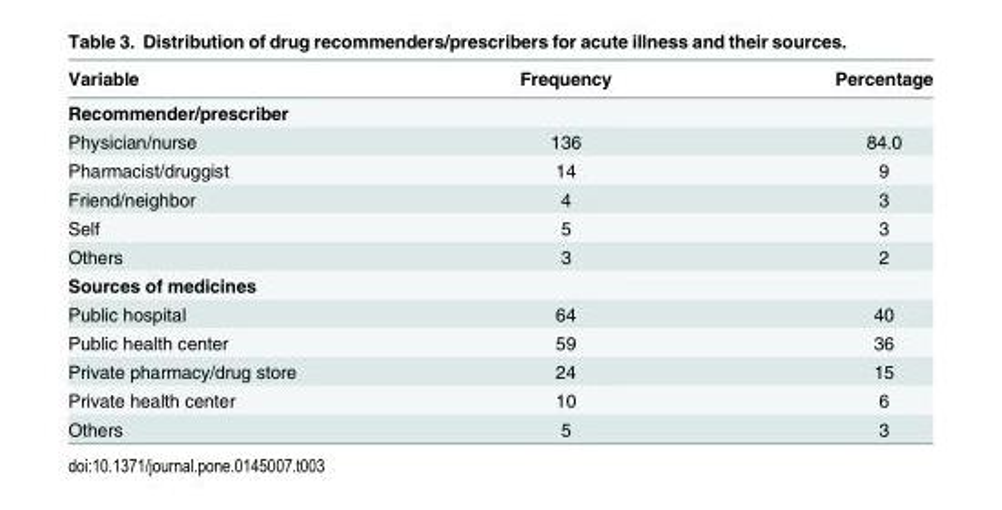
<table><thead><tr><td>Variable</td><td>Frequency</td><td>Percentage</td></tr></thead><tbody><tr><td colspan="3">Recommender/prescriber</td></tr><tr><td>Physician/nurse</td><td>136</td><td>84.0</td></tr><tr><td>Pharmacist/druggist</td><td>14</td><td>9</td></tr><tr><td>Friend/neighbor</td><td>4</td><td>3</td></tr><tr><td>Self</td><td>5</td><td>3</td></tr><tr><td>Others</td><td>3</td><td>2</td></tr><tr><td colspan="3">Sources of medicines</td></tr><tr><td>Public hospital</td><td>64</td><td>40</td></tr><tr><td>Public health center</td><td>59</td><td>36</td></tr><tr><td>Private pharmacy/drug store</td><td>24</td><td>15</td></tr><tr><td>Private health center</td><td>10</td><td>6</td></tr><tr><td>Others</td><td>5</td><td>3</td></tr></tbody></table>